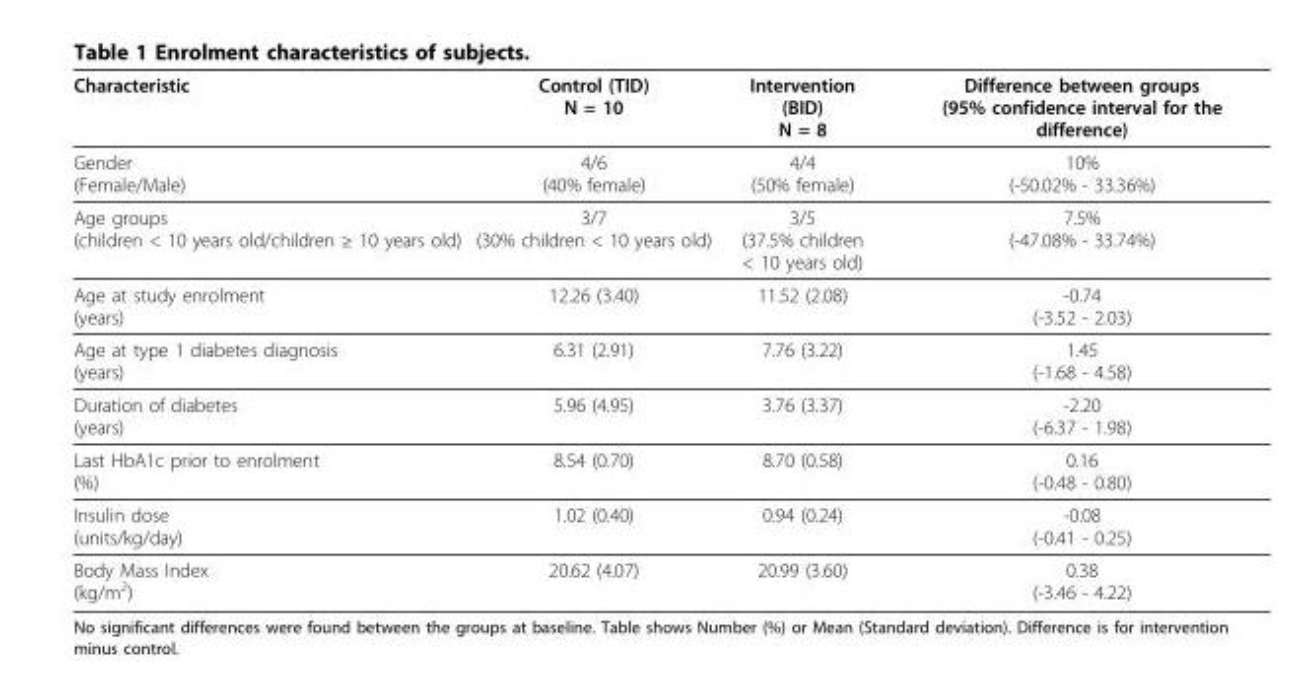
<table><thead><tr><td>Characteristic</td><td>Control (TID) N = 10</td><td>Intervention (BID) N = 8</td><td>Difference between groups (95% confidence interval for the difference)</td></tr></thead><tbody><tr><td>Gender (Female/Male)</td><td>4/6 (40% female)</td><td>4/4 (50% female)</td><td>10% (-50.02% - 33.36%)</td></tr><tr><td>Age groups (children &lt; 10 years old/children ≥ 10 years old)</td><td>3/7 (30% children &lt; 10 years old)</td><td>3/5 (37.5% children &lt; 10 years old)</td><td>7.5% (-47.08% - 33.74%)</td></tr><tr><td>Age at study enrolment (years)</td><td>12.26 (3.40)</td><td>11.52 (2.08)</td><td>-0.74 (-3.52 - 2.03)</td></tr><tr><td>Age at type 1 diabetes diagnosis (years)</td><td>6.31 (2.91)</td><td>7.76 (3.22)</td><td>1.45 (-1.68 - 4.58)</td></tr><tr><td>Duration of diabetes (years)</td><td>5.96 (4.95)</td><td>3.76 (3.37)</td><td>-2.20 (-6.37 - 1.98)</td></tr><tr><td>Last HbA1c prior to enrolment (%)</td><td>8.54 (0.70)</td><td>8.70 (0.58)</td><td>0.16 (-0.48 - 0.80)</td></tr><tr><td>Insulin dose (units/kg/day)</td><td>1.02 (0.40)</td><td>0.94 (0.24)</td><td>-0.08 (-0.41 - 0.25)</td></tr><tr><td>Body Mass Index (kg/m<sup>2</sup>)</td><td>20.62 (4.07)</td><td>20.99 (3.60)</td><td>0.38 (-3.46 - 4.22)</td></tr></tbody></table>